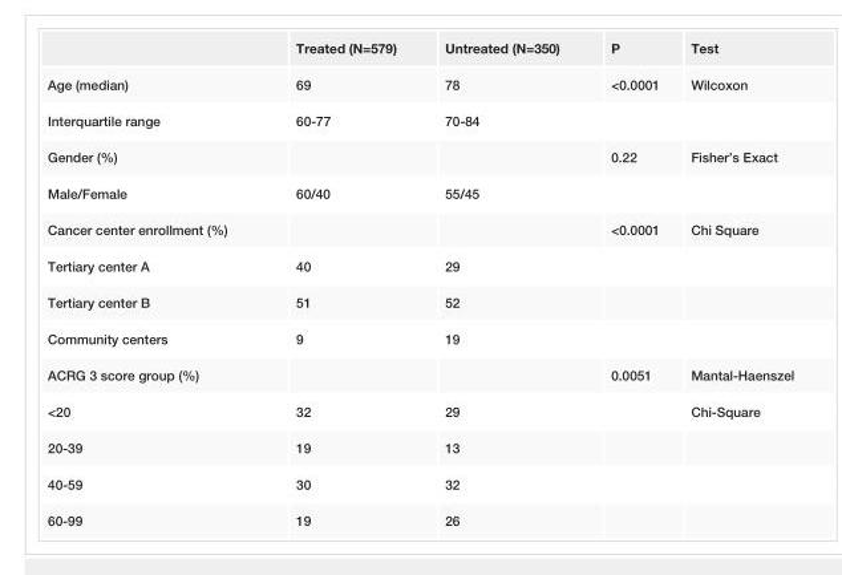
<table><thead><tr><td></td><td>Treated (N=579)</td><td>Untreated (N=350)</td><td>P</td><td>Test</td></tr></thead><tbody><tr><td>Age (median)</td><td>69</td><td>78</td><td>&lt;0.0001</td><td>Wilcoxon</td></tr><tr><td>Interquartile range</td><td>60-77</td><td>70-84</td><td></td><td></td></tr><tr><td>Gender (%)</td><td></td><td></td><td>0.22</td><td>Fisher’s Exact</td></tr><tr><td>Male/Female</td><td>60/40</td><td>55/45</td><td></td><td></td></tr><tr><td>Cancer center enrollment (%)</td><td></td><td></td><td>&lt;0.0001</td><td>Chi Square</td></tr><tr><td>Tertiary center A</td><td>40</td><td>29</td><td></td><td></td></tr><tr><td>Tertiary center B</td><td>51</td><td>52</td><td></td><td></td></tr><tr><td>Community centers</td><td>9</td><td>19</td><td></td><td></td></tr><tr><td>ACRG 3 score group (%)</td><td></td><td></td><td>0.0051</td><td>Mantal-Haenszel</td></tr><tr><td>&lt;20</td><td>32</td><td>29</td><td></td><td>Chi-Square</td></tr><tr><td>20-39</td><td>19</td><td>13</td><td></td><td></td></tr><tr><td>40-59</td><td>30</td><td>32</td><td></td><td></td></tr><tr><td>60-99</td><td>19</td><td>26</td><td></td><td></td></tr></tbody></table>